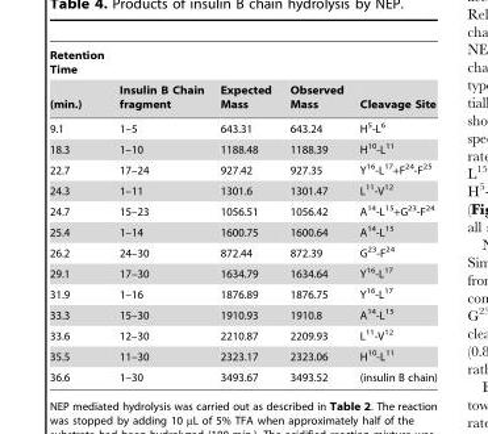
<table><thead><tr><td rowspan="2">Retention Time (min.)</td><td rowspan="2">Insulin B Chain fragment</td><td rowspan="2">Expected Mass</td><td rowspan="2">Observed Mass</td><td rowspan="2">Cleavage Site</td></tr><tr></tr></thead><tbody><tr><td>9.1</td><td>1–5</td><td>643.31</td><td>643.24</td><td>H<sup>5</sup>-L<sup>6</sup></td></tr><tr><td>18.3</td><td>1–10</td><td>1188.48</td><td>1188.39</td><td>H<sup>10</sup>-L<sup>11</sup></td></tr><tr><td>22.7</td><td>17–24</td><td>927.42</td><td>927.35</td><td>Y<sup>16</sup>-L<sup>17</sup>+F<sup>24</sup>-F<sup>25</sup></td></tr><tr><td>24.3</td><td>1–11</td><td>1301.6</td><td>1301.47</td><td>L<sup>11</sup>-V<sup>12</sup></td></tr><tr><td>24.7</td><td>15–23</td><td>1056.51</td><td>1056.42</td><td>A<sup>14</sup>-L<sup>15</sup>+G<sup>23</sup>-F<sup>24</sup></td></tr><tr><td>25.4</td><td>1–14</td><td>1600.75</td><td>1600.64</td><td>A<sup>14</sup>-L<sup>15</sup></td></tr><tr><td>26.2</td><td>24–30</td><td>872.44</td><td>872.39</td><td>G<sup>23</sup>-F<sup>24</sup></td></tr><tr><td>29.1</td><td>17–30</td><td>1634.79</td><td>1634.64</td><td>Y<sup>16</sup>-L<sup>17</sup></td></tr><tr><td>31.9</td><td>1–16</td><td>1876.89</td><td>1876.75</td><td>Y<sup>16</sup>-L<sup>17</sup></td></tr><tr><td>33.3</td><td>15–30</td><td>1910.93</td><td>1910.8</td><td>A<sup>14</sup>-L<sup>15</sup></td></tr><tr><td>33.6</td><td>12–30</td><td>2210.87</td><td>2209.93</td><td>L<sup>11</sup>-V<sup>12</sup></td></tr><tr><td>35.5</td><td>11–30</td><td>2323.17</td><td>2323.06</td><td>H<sup>10</sup>-L<sup>11</sup></td></tr><tr><td>36.6</td><td>1–30</td><td>3493.67</td><td>3493.52</td><td>(insulin B chain)</td></tr></tbody></table>